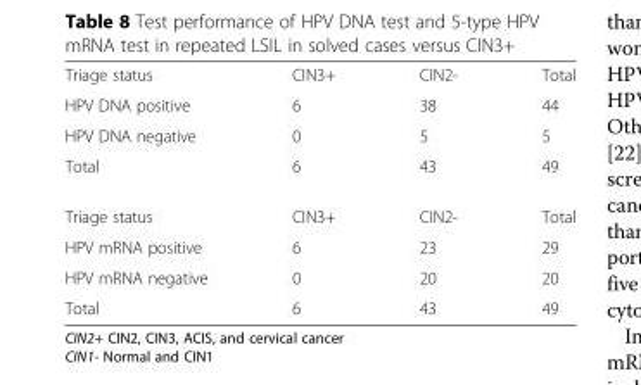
<table><tbody><tr><td>Triage status</td><td>CIN3+</td><td>CIN2-</td><td>Total</td></tr><tr><td>HPV DNA positive</td><td>6</td><td>38</td><td>44</td></tr><tr><td>HPV DNA negative</td><td>0</td><td>5</td><td>5</td></tr><tr><td>Total</td><td>6</td><td>43</td><td>49</td></tr><tr><td>Triage status</td><td>CIN3+</td><td>CIN2-</td><td>Total</td></tr><tr><td>HPV mRNA positive</td><td>6</td><td>23</td><td>29</td></tr><tr><td>HPV mRNA negative</td><td>0</td><td>20</td><td>20</td></tr><tr><td>Total</td><td>6</td><td>43</td><td>49</td></tr></tbody></table>